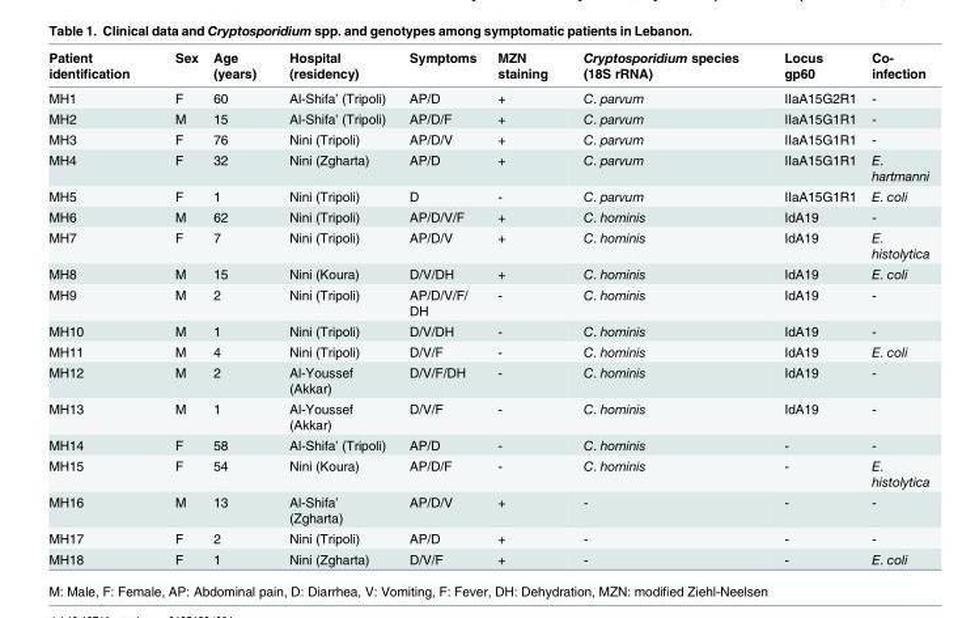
<table><thead><tr><td>Patient identification</td><td>Sex</td><td>Age (years)</td><td>Hospital (residency)</td><td>Symptoms</td><td>MZN staining</td><td>Cryptosporidium species (18S rRNA)</td><td>Locus gp60</td><td>Co- infection</td></tr></thead><tbody><tr><td>MH1</td><td>F</td><td>60</td><td>Al-Shifa’ (Tripoli)</td><td>AP/D</td><td>+</td><td>C. parvum</td><td>IIaA15G2R1</td><td>-</td></tr><tr><td>MH2</td><td>M</td><td>15</td><td>Al-Shifa’ (Tripoli)</td><td>AP/D/F</td><td>+</td><td>C. parvum</td><td>IIaA15G1R1</td><td>-</td></tr><tr><td>MH3</td><td>F</td><td>76</td><td>Nini (Tripoli)</td><td>AP/D/V</td><td>+</td><td>C. parvum</td><td>IIaA15G1R1</td><td>-</td></tr><tr><td>MH4</td><td>F</td><td>32</td><td>Nini (Zgharta)</td><td>AP/D</td><td>+</td><td>C. parvum</td><td>IIaA15G1R1</td><td>E. hartmanni</td></tr><tr><td>MH5</td><td>F</td><td>1</td><td>Nini (Tripoli)</td><td>D</td><td>-</td><td>C. parvum</td><td>IIaA15G1R1</td><td>E. coli</td></tr><tr><td>MH6</td><td>M</td><td>62</td><td>Nini (Tripoli)</td><td>AP/D/V/F</td><td>+</td><td>C. hominis</td><td>IdA19</td><td>-</td></tr><tr><td>MH7</td><td>F</td><td>7</td><td>Nini (Tripoli)</td><td>AP/D/V</td><td>+</td><td>C. hominis</td><td>IdA19</td><td>E. histolytica</td></tr><tr><td>MH8</td><td>M</td><td>15</td><td>Nini (Koura)</td><td>D/V/DH</td><td>+</td><td>C. hominis</td><td>IdA19</td><td>E. coli</td></tr><tr><td>MH9</td><td>M</td><td>2</td><td>Nini (Tripoli)</td><td>AP/D/V/F/ DH</td><td>-</td><td>C. hominis</td><td>IdA19</td><td>-</td></tr><tr><td>MH10</td><td>M</td><td>1</td><td>Nini (Tripoli)</td><td>D/V/DH</td><td>-</td><td>C. hominis</td><td>IdA19</td><td>-</td></tr><tr><td>MH11</td><td>M</td><td>4</td><td>Nini (Tripoli)</td><td>D/V/F</td><td>-</td><td>C. hominis</td><td>IdA19</td><td>E. coli</td></tr><tr><td>MH12</td><td>M</td><td>2</td><td>Al-Youssef (Akkar)</td><td>D/V/F/DH</td><td>-</td><td>C. hominis</td><td>IdA19</td><td>-</td></tr><tr><td>MH13</td><td>M</td><td>1</td><td>Al-Youssef (Akkar)</td><td>D/V/F</td><td>-</td><td>C. hominis</td><td>IdA19</td><td>-</td></tr><tr><td>MH14</td><td>F</td><td>58</td><td>Al-Shifa’ (Tripoli)</td><td>AP/D</td><td>-</td><td>C. hominis</td><td>-</td><td>-</td></tr><tr><td>MH15</td><td>F</td><td>54</td><td>Nini (Koura)</td><td>AP/D/F</td><td>-</td><td>C. hominis</td><td>-</td><td>E. histolytica</td></tr><tr><td>MH16</td><td>M</td><td>13</td><td>Al-Shifa’ (Zgharta)</td><td>AP/D/V</td><td>+</td><td>-</td><td>-</td><td>-</td></tr><tr><td>MH17</td><td>F</td><td>2</td><td>Nini (Tripoli)</td><td>AP/D</td><td>+</td><td>-</td><td>-</td><td>-</td></tr><tr><td>MH18</td><td>F</td><td>1</td><td>Nini (Zgharta)</td><td>D/V/F</td><td>+</td><td>-</td><td>-</td><td>E. coli</td></tr></tbody></table>